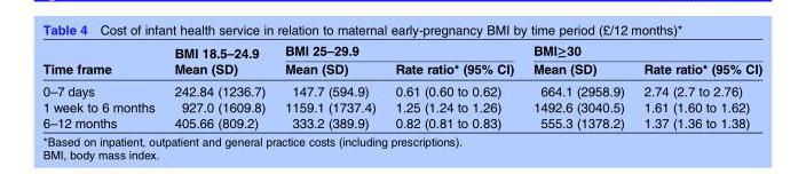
<table><thead><tr><td rowspan="2">Time frame</td><td rowspan="2">BMI 18.5–24.9 Mean (SD)</td><td colspan="2">BMI 25–29.9</td><td colspan="2">BMI≥30</td></tr><tr><td>Mean (SD)</td><td>Rate ratio* (95% CI)</td><td>Mean (SD)</td><td>Rate ratio* (95% CI)</td></tr></thead><tbody><tr><td>0–7 days</td><td>242.84 (1236.7)</td><td>147.7 (594.9)</td><td>0.61 (0.60 to 0.62)</td><td>664.1 (2958.9)</td><td>2.74 (2.7 to 2.76)</td></tr><tr><td>1 week to 6 months</td><td>927.0 (1609.8)</td><td>1159.1 (1737.4)</td><td>1.25 (1.24 to 1.26)</td><td>1492.6 (3040.5)</td><td>1.61 (1.60 to 1.62)</td></tr><tr><td>6–12 months</td><td>405.66 (809.2)</td><td>333.2 (389.9)</td><td>0.82 (0.81 to 0.83)</td><td>555.3 (1378.2)</td><td>1.37 (1.36 to 1.38)</td></tr></tbody></table>